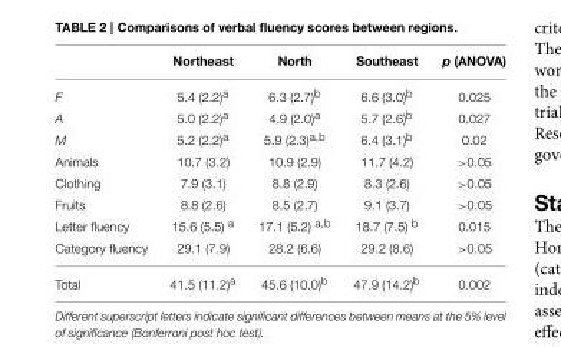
<table><thead><tr><td></td><td>Northeast</td><td>North</td><td>Southeast</td><td>p (ANOVA)</td></tr></thead><tbody><tr><td>F</td><td>5.4 (2.2)<sup>a</sup></td><td>6.3 (2.7)<sup>b</sup></td><td>6.6 (3.0)<sup>b</sup></td><td>0.025</td></tr><tr><td>A</td><td>5.0 (2.2)<sup>a</sup></td><td>4.9 (2.0)<sup>a</sup></td><td>5.7 (2.6)<sup>b</sup></td><td>0.027</td></tr><tr><td>M</td><td>5.2 (2.2)<sup>a</sup></td><td>5.9 (2.3)<sup>a,b</sup></td><td>6.4 (3.1)<sup>b</sup></td><td>0.02</td></tr><tr><td>Animals</td><td>10.7 (3.2)</td><td>10.9 (2.9)</td><td>11.7 (4.2)</td><td>&gt;0.05</td></tr><tr><td>Clothing</td><td>7.9 (3.1)</td><td>8.8 (2.9)</td><td>8.3 (2.6)</td><td>&gt;0.05</td></tr><tr><td>Fruits</td><td>8.8 (2.6)</td><td>8.5 (2.7)</td><td>9.1 (3.7)</td><td>&gt;0.05</td></tr><tr><td>Letter fluency</td><td>15.6 (5.5) <sup>a</sup></td><td>17.1 (5.2) <sup>a,b</sup></td><td>18.7 (7.5) <sup>b</sup></td><td>0.015</td></tr><tr><td>Category fluency</td><td>29.1 (7.9)</td><td>28.2 (6.6)</td><td>29.2 (8.6)</td><td>&gt;0.05</td></tr><tr><td>Total</td><td>41.5 (11.2)<sup>a</sup></td><td>45.6 (10.0)<sup>b</sup></td><td>47.9 (14.2)<sup>b</sup></td><td>0.002</td></tr></tbody></table>